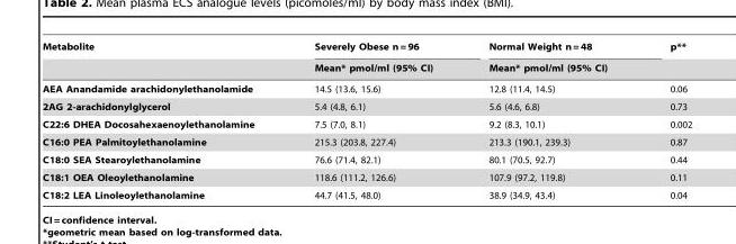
<table><thead><tr><td rowspan="2">Metabolite</td><td rowspan="2">Severely Obese n = 96 Mean* pmol/ml (95% CI)</td><td rowspan="2">Normal Weight n = 48 Mean* pmol/ml (95% CI)</td><td rowspan="2">p**</td></tr><tr></tr></thead><tbody><tr><td>AEA Anandamide arachidonylethanolamide</td><td>14.5 (13.6, 15.6)</td><td>12.8 (11.4, 14.5)</td><td>0.06</td></tr><tr><td>2AG 2-arachidonylglycerol</td><td>5.4 (4.8, 6.1)</td><td>5.6 (4.6, 6.8)</td><td>0.73</td></tr><tr><td>C22:6 DHEA Docosahexaenoylethanolamine</td><td>7.5 (7.0, 8.1)</td><td>9.2 (8.3, 10.1)</td><td>0.002</td></tr><tr><td>C16:0 PEA Palmitoylethanolamine</td><td>215.3 (203.8, 227.4)</td><td>213.3 (190.1, 239.3)</td><td>0.87</td></tr><tr><td>C18:0 SEA Stearoylethanolamine</td><td>76.6 (71.4, 82.1)</td><td>80.1 (70.5, 92.7)</td><td>0.44</td></tr><tr><td>C18:1 OEA Oleoylethanolamine</td><td>118.6 (111.2, 126.6)</td><td>107.9 (97.2, 119.8)</td><td>0.11</td></tr><tr><td>C18:2 LEA Linoleoylethanolamine</td><td>44.7 (41.5, 48.0)</td><td>38.9 (34.9, 43.4)</td><td>0.04</td></tr></tbody></table>